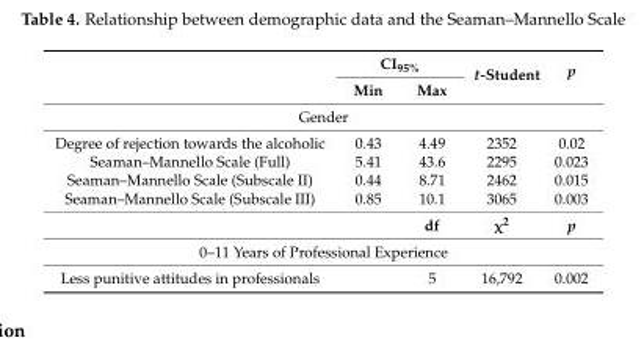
<table><thead><tr><td rowspan="2"></td><td colspan="2">CI<sub>95%</sub></td><td rowspan="2">t-Student</td><td rowspan="2">p</td></tr><tr><td>Min</td><td>Max</td></tr></thead><tbody><tr><td colspan="5">Gender</td></tr><tr><td>Degree of rejection towards the alcoholic</td><td>0.43</td><td>4.49</td><td>2352</td><td>0.02</td></tr><tr><td>Seaman–Mannello Scale (Full)</td><td>5.41</td><td>43.6</td><td>2295</td><td>0.023</td></tr><tr><td>Seaman–Mannello Scale (Subscale II)</td><td>0.44</td><td>8.71</td><td>2462</td><td>0.015</td></tr><tr><td rowspan="2">Seaman–Mannello Scale (Subscale III)</td><td>0.85</td><td>10.1</td><td>3065</td><td>0.003</td></tr><tr><td></td><td>df</td><td>χ<sup>2</sup></td><td>p</td></tr><tr><td colspan="5">0–11 Years of Professional Experience</td></tr><tr><td>Less punitive attitudes in professionals</td><td></td><td>5</td><td>16,792</td><td>0.002</td></tr></tbody></table>